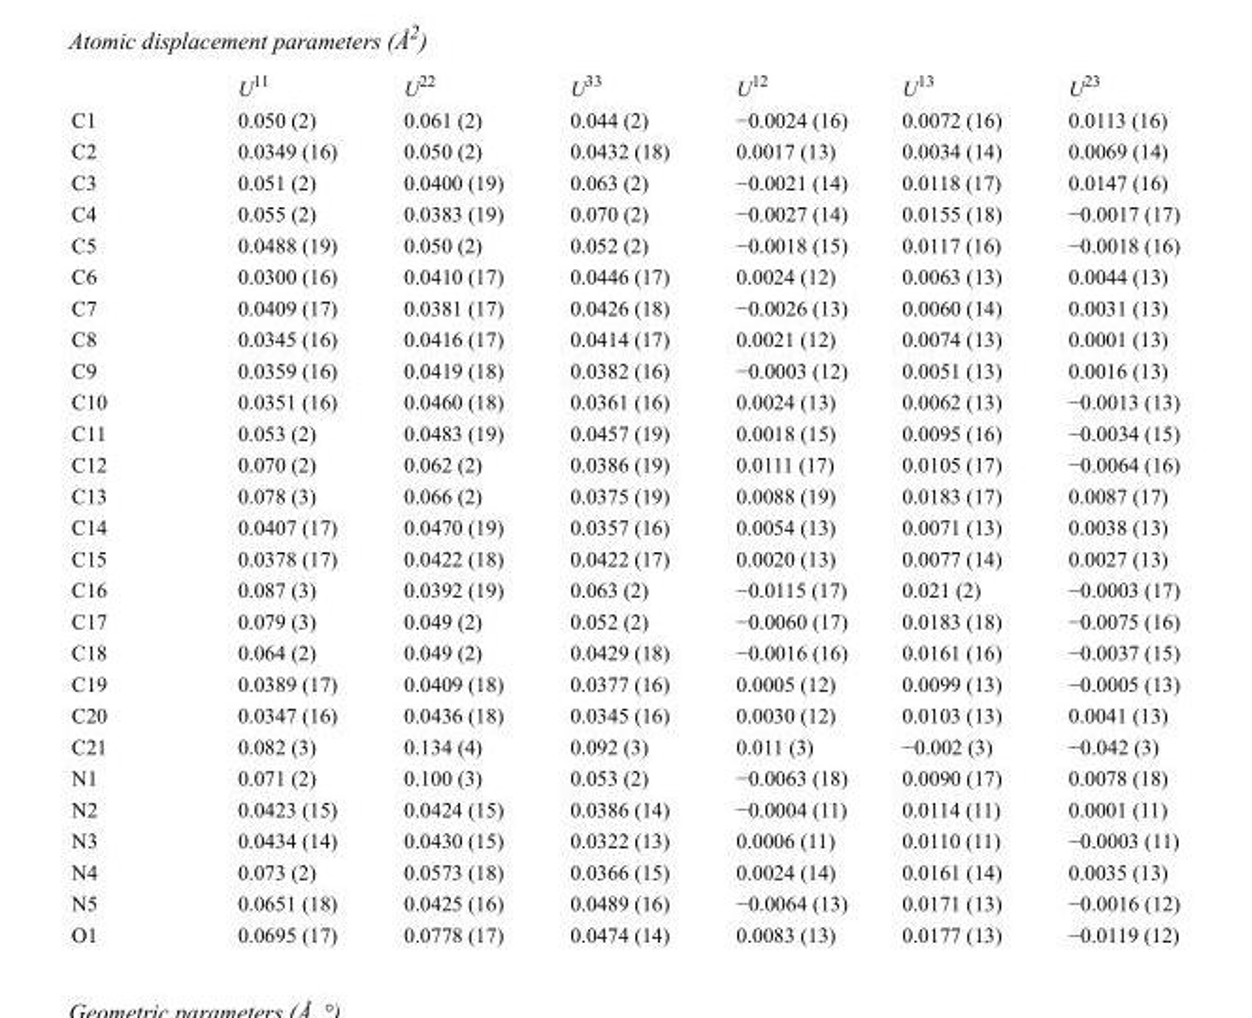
<table><thead><tr><td></td><td>U<sup>11</sup></td><td>U<sup>22</sup></td><td>U<sup>33</sup></td><td>U<sup>12</sup></td><td>U<sup>13</sup></td><td>U<sup>23</sup></td></tr></thead><tbody><tr><td>C1</td><td>0.050 (2)</td><td>0.061 (2)</td><td>0.044 (2)</td><td>−0.0024 (16)</td><td>0.0072 (16)</td><td>0.0113 (16)</td></tr><tr><td>C2</td><td>0.0349 (16)</td><td>0.050 (2)</td><td>0.0432 (18)</td><td>0.0017 (13)</td><td>0.0034 (14)</td><td>0.0069 (14)</td></tr><tr><td>C3</td><td>0.051 (2)</td><td>0.0400 (19)</td><td>0.063 (2)</td><td>−0.0021 (14)</td><td>0.0118 (17)</td><td>0.0147 (16)</td></tr><tr><td>C4</td><td>0.055 (2)</td><td>0.0383 (19)</td><td>0.070 (2)</td><td>−0.0027 (14)</td><td>0.0155 (18)</td><td>−0.0017 (17)</td></tr><tr><td>C5</td><td>0.0488 (19)</td><td>0.050 (2)</td><td>0.052 (2)</td><td>−0.0018 (15)</td><td>0.0117 (16)</td><td>−0.0018 (16)</td></tr><tr><td>C6</td><td>0.0300 (16)</td><td>0.0410 (17)</td><td>0.0446 (17)</td><td>0.0024 (12)</td><td>0.0063 (13)</td><td>0.0044 (13)</td></tr><tr><td>C7</td><td>0.0409 (17)</td><td>0.0381 (17)</td><td>0.0426 (18)</td><td>−0.0026 (13)</td><td>0.0060 (14)</td><td>0.0031 (13)</td></tr><tr><td>C8</td><td>0.0345 (16)</td><td>0.0416 (17)</td><td>0.0414 (17)</td><td>0.0021 (12)</td><td>0.0074 (13)</td><td>0.0001 (13)</td></tr><tr><td>C9</td><td>0.0359 (16)</td><td>0.0419 (18)</td><td>0.0382 (16)</td><td>−0.0003 (12)</td><td>0.0051 (13)</td><td>0.0016 (13)</td></tr><tr><td>C10</td><td>0.0351 (16)</td><td>0.0460 (18)</td><td>0.0361 (16)</td><td>0.0024 (13)</td><td>0.0062 (13)</td><td>−0.0013 (13)</td></tr><tr><td>C11</td><td>0.053 (2)</td><td>0.0483 (19)</td><td>0.0457 (19)</td><td>0.0018 (15)</td><td>0.0095 (16)</td><td>−0.0034 (15)</td></tr><tr><td>C12</td><td>0.070 (2)</td><td>0.062 (2)</td><td>0.0386 (19)</td><td>0.0111 (17)</td><td>0.0105 (17)</td><td>−0.0064 (16)</td></tr><tr><td>C13</td><td>0.078 (3)</td><td>0.066 (2)</td><td>0.0375 (19)</td><td>0.0088 (19)</td><td>0.0183 (17)</td><td>0.0087 (17)</td></tr><tr><td>C14</td><td>0.0407 (17)</td><td>0.0470 (19)</td><td>0.0357 (16)</td><td>0.0054 (13)</td><td>0.0071 (13)</td><td>0.0038 (13)</td></tr><tr><td>C15</td><td>0.0378 (17)</td><td>0.0422 (18)</td><td>0.0422 (17)</td><td>0.0020 (13)</td><td>0.0077 (14)</td><td>0.0027 (13)</td></tr><tr><td>C16</td><td>0.087 (3)</td><td>0.0392 (19)</td><td>0.063 (2)</td><td>−0.0115 (17)</td><td>0.021 (2)</td><td>−0.0003 (17)</td></tr><tr><td>C17</td><td>0.079 (3)</td><td>0.049 (2)</td><td>0.052 (2)</td><td>−0.0060 (17)</td><td>0.0183 (18)</td><td>−0.0075 (16)</td></tr><tr><td>C18</td><td>0.064 (2)</td><td>0.049 (2)</td><td>0.0429 (18)</td><td>−0.0016 (16)</td><td>0.0161 (16)</td><td>−0.0037 (15)</td></tr><tr><td>C19</td><td>0.0389 (17)</td><td>0.0409 (18)</td><td>0.0377 (16)</td><td>0.0005 (12)</td><td>0.0099 (13)</td><td>−0.0005 (13)</td></tr><tr><td>C20</td><td>0.0347 (16)</td><td>0.0436 (18)</td><td>0.0345 (16)</td><td>0.0030 (12)</td><td>0.0103 (13)</td><td>0.0041 (13)</td></tr><tr><td>C21</td><td>0.082 (3)</td><td>0.134 (4)</td><td>0.092 (3)</td><td>0.011 (3)</td><td>−0.002 (3)</td><td>−0.042 (3)</td></tr><tr><td>N1</td><td>0.071 (2)</td><td>0.100 (3)</td><td>0.053 (2)</td><td>−0.0063 (18)</td><td>0.0090 (17)</td><td>0.0078 (18)</td></tr><tr><td>N2</td><td>0.0423 (15)</td><td>0.0424 (15)</td><td>0.0386 (14)</td><td>−0.0004 (11)</td><td>0.0114 (11)</td><td>0.0001 (11)</td></tr><tr><td>N3</td><td>0.0434 (14)</td><td>0.0430 (15)</td><td>0.0322 (13)</td><td>0.0006 (11)</td><td>0.0110 (11)</td><td>−0.0003 (11)</td></tr><tr><td>N4</td><td>0.073 (2)</td><td>0.0573 (18)</td><td>0.0366 (15)</td><td>0.0024 (14)</td><td>0.0161 (14)</td><td>0.0035 (13)</td></tr><tr><td>N5</td><td>0.0651 (18)</td><td>0.0425 (16)</td><td>0.0489 (16)</td><td>−0.0064 (13)</td><td>0.0171 (13)</td><td>−0.0016 (12)</td></tr><tr><td>O1</td><td>0.0695 (17)</td><td>0.0778 (17)</td><td>0.0474 (14)</td><td>0.0083 (13)</td><td>0.0177 (13)</td><td>−0.0119 (12)</td></tr></tbody></table>